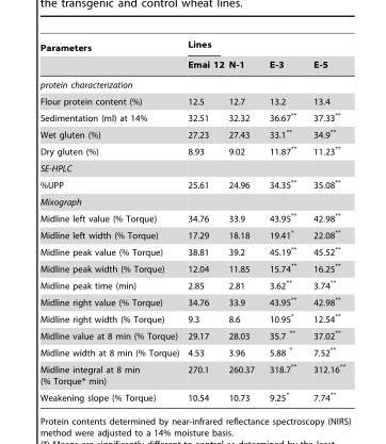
<table><thead><tr><td rowspan="2">Parameters</td><td rowspan="2">Lines Emai 12</td><td rowspan="2">N-1</td><td rowspan="2">E-3</td><td rowspan="2">E-5</td></tr><tr></tr></thead><tbody><tr><td colspan="5">protein characterization</td></tr><tr><td>Flour protein content (%)</td><td>12.5</td><td>12.7</td><td>13.2</td><td>13.4</td></tr><tr><td>Sedimentation (ml) at 14%</td><td>32.51</td><td>32.32</td><td>36.67**</td><td>37.33**</td></tr><tr><td>Wet gluten (%)</td><td>27.23</td><td>27.43</td><td>33.1**</td><td>34.9**</td></tr><tr><td>Dry gluten (%)</td><td>8.93</td><td>9.02</td><td>11.87**</td><td>11.23**</td></tr><tr><td colspan="5">SE-HPLC</td></tr><tr><td>%UPP</td><td>25.61</td><td>24.96</td><td>34.35**</td><td>35.08**</td></tr><tr><td colspan="5">Mixograph</td></tr><tr><td>Midline left value (% Torque)</td><td>34.76</td><td>33.9</td><td>43.95**</td><td>42.98**</td></tr><tr><td>Midline left width (% Torque)</td><td>17.29</td><td>18.18</td><td>19.41*</td><td>22.08**</td></tr><tr><td>Midline peak value (% Torque)</td><td>38.81</td><td>39.2</td><td>45.19**</td><td>45.52**</td></tr><tr><td>Midline peak width (% Torque)</td><td>12.04</td><td>11.85</td><td>15.74**</td><td>16.25**</td></tr><tr><td>Midline peak time (min)</td><td>2.85</td><td>2.81</td><td>3.62**</td><td>3.74**</td></tr><tr><td>Midline right value (% Torque)</td><td>34.76</td><td>33.9</td><td>43.95**</td><td>42.98**</td></tr><tr><td>Midline right width (% Torque)</td><td>9.3</td><td>8.6</td><td>10.95*</td><td>12.54**</td></tr><tr><td>Midline value at 8 min (% Torque)</td><td>29.17</td><td>28.03</td><td>35.7 **</td><td>37.02**</td></tr><tr><td>Midline width at 8 min (% Torque)</td><td>4.53</td><td>3.96</td><td>5.88 *</td><td>7.52**</td></tr><tr><td>Midline integral at 8 min (% Torque* min)</td><td>270.1</td><td>260.37</td><td>318.7**</td><td>312.16**</td></tr><tr><td>Weakening slope (% Torque)</td><td>10.54</td><td>10.73</td><td>9.25*</td><td>7.74**</td></tr></tbody></table>